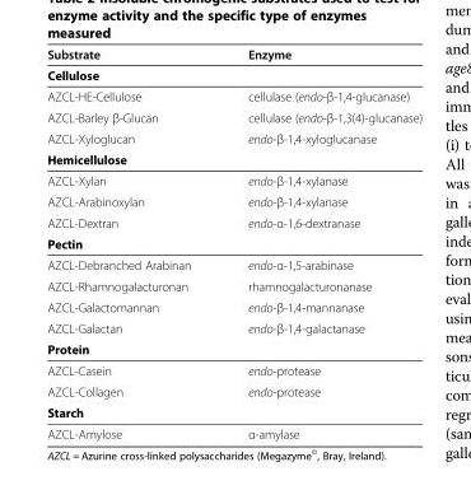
<table><thead><tr><td>Substrate</td><td>Enzyme</td></tr></thead><tbody><tr><td colspan="2">Cellulose</td></tr><tr><td>AZCL-HE-Cellulose</td><td>cellulase (endo-β-1,4-glucanase)</td></tr><tr><td>AZCL-Barley β-Glucan</td><td>cellulase (endo-β-1,3(4)-glucanase)</td></tr><tr><td>AZCL-Xyloglucan</td><td>endo-β-1,4-xyloglucanase</td></tr><tr><td colspan="2">Hemicellulose</td></tr><tr><td>AZCL-Xylan</td><td>endo-β-1,4-xylanase</td></tr><tr><td>AZCL-Arabinoxylan</td><td>endo-β-1,4-xylanase</td></tr><tr><td>AZCL-Dextran</td><td>endo-α-1,6-dextranase</td></tr><tr><td colspan="2">Pectin</td></tr><tr><td>AZCL-Debranched Arabinan</td><td>endo-α-1,5-arabinase</td></tr><tr><td>AZCL-Rhamnogalacturonan</td><td>rhamnogalacturonanase</td></tr><tr><td>AZCL-Galactomannan</td><td>endo-β-1,4-mannanase</td></tr><tr><td>AZCL-Galactan</td><td>endo-β-1,4-galactanase</td></tr><tr><td colspan="2">Protein</td></tr><tr><td>AZCL-Casein</td><td>endo-protease</td></tr><tr><td>AZCL-Collagen</td><td>endo-protease</td></tr><tr><td colspan="2">Starch</td></tr><tr><td>AZCL-Amylose</td><td>α-amylase</td></tr></tbody></table>